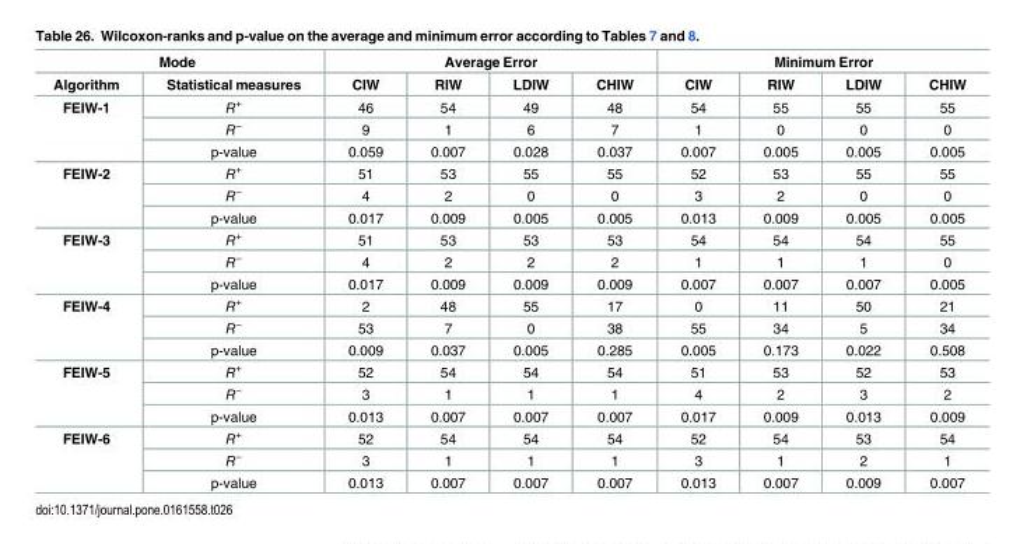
<table><thead><tr><td colspan="2">Mode</td><td colspan="4">Average Error</td><td colspan="4">Minimum Error</td></tr><tr><td>Algorithm</td><td>Statistical measures</td><td>CIW</td><td>RIW</td><td>LDIW</td><td>CHIW</td><td>CIW</td><td>RIW</td><td>LDIW</td><td>CHIW</td></tr></thead><tbody><tr><td rowspan="3">FEIW-1</td><td>R<sup>+</sup></td><td>46</td><td>54</td><td>49</td><td>48</td><td>54</td><td>55</td><td>55</td><td>55</td></tr><tr><td>R<sup>−</sup></td><td>9</td><td>1</td><td>6</td><td>7</td><td>1</td><td>0</td><td>0</td><td>0</td></tr><tr><td>p-value</td><td>0.059</td><td>0.007</td><td>0.028</td><td>0.037</td><td>0.007</td><td>0.005</td><td>0.005</td><td>0.005</td></tr><tr><td rowspan="3">FEIW-2</td><td>R<sup>+</sup></td><td>51</td><td>53</td><td>55</td><td>55</td><td>52</td><td>53</td><td>55</td><td>55</td></tr><tr><td>R<sup>−</sup></td><td>4</td><td>2</td><td>0</td><td>0</td><td>3</td><td>2</td><td>0</td><td>0</td></tr><tr><td>p-value</td><td>0.017</td><td>0.009</td><td>0.005</td><td>0.005</td><td>0.013</td><td>0.009</td><td>0.005</td><td>0.005</td></tr><tr><td rowspan="3">FEIW-3</td><td>R<sup>+</sup></td><td>51</td><td>53</td><td>53</td><td>53</td><td>54</td><td>54</td><td>54</td><td>55</td></tr><tr><td>R<sup>−</sup></td><td>4</td><td>2</td><td>2</td><td>2</td><td>1</td><td>1</td><td>1</td><td>0</td></tr><tr><td>p-value</td><td>0.017</td><td>0.009</td><td>0.009</td><td>0.009</td><td>0.007</td><td>0.007</td><td>0.007</td><td>0.005</td></tr><tr><td rowspan="3">FEIW-4</td><td>R<sup>+</sup></td><td>2</td><td>48</td><td>55</td><td>17</td><td>0</td><td>11</td><td>50</td><td>21</td></tr><tr><td>R<sup>−</sup></td><td>53</td><td>7</td><td>0</td><td>38</td><td>55</td><td>34</td><td>5</td><td>34</td></tr><tr><td>p-value</td><td>0.009</td><td>0.037</td><td>0.005</td><td>0.285</td><td>0.005</td><td>0.173</td><td>0.022</td><td>0.508</td></tr><tr><td rowspan="3">FEIW-5</td><td>R<sup>+</sup></td><td>52</td><td>54</td><td>54</td><td>54</td><td>51</td><td>53</td><td>52</td><td>53</td></tr><tr><td>R<sup>−</sup></td><td>3</td><td>1</td><td>1</td><td>1</td><td>4</td><td>2</td><td>3</td><td>2</td></tr><tr><td>p-value</td><td>0.013</td><td>0.007</td><td>0.007</td><td>0.007</td><td>0.017</td><td>0.009</td><td>0.013</td><td>0.009</td></tr><tr><td rowspan="3">FEIW-6</td><td>R<sup>+</sup></td><td>52</td><td>54</td><td>54</td><td>54</td><td>52</td><td>54</td><td>53</td><td>54</td></tr><tr><td>R<sup>−</sup></td><td>3</td><td>1</td><td>1</td><td>1</td><td>3</td><td>1</td><td>2</td><td>1</td></tr><tr><td>p-value</td><td>0.013</td><td>0.007</td><td>0.007</td><td>0.007</td><td>0.013</td><td>0.007</td><td>0.009</td><td>0.007</td></tr></tbody></table>